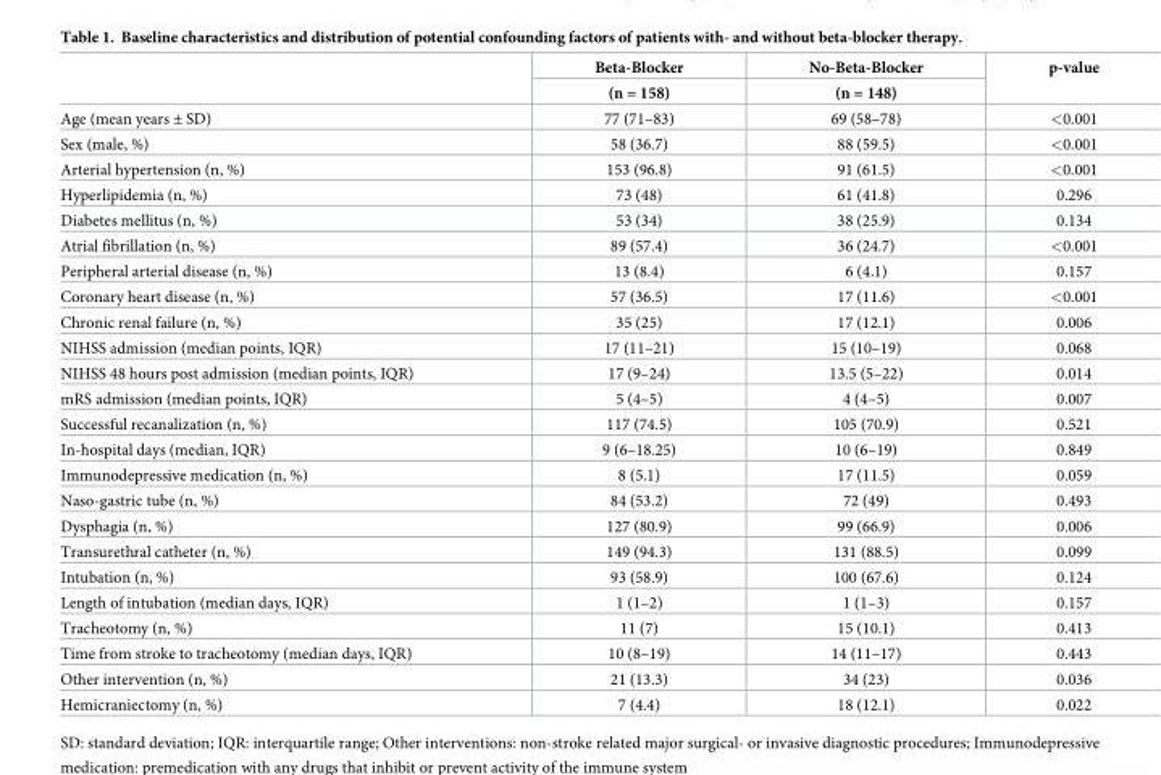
<table><thead><tr><td rowspan="2"></td><td rowspan="2">Beta-Blocker (n = 158)</td><td rowspan="2">No-Beta-Blocker (n = 148)</td><td rowspan="2">p-value</td></tr><tr></tr></thead><tbody><tr><td>Age (mean years ± SD)</td><td>77 (71–83)</td><td>69 (58–78)</td><td>&lt;0.001</td></tr><tr><td>Sex (male, %)</td><td>58 (36.7)</td><td>88 (59.5)</td><td>&lt;0.001</td></tr><tr><td>Arterial hypertension (n, %)</td><td>153 (96.8)</td><td>91 (61.5)</td><td>&lt;0.001</td></tr><tr><td>Hyperlipidemia (n, %)</td><td>73 (48)</td><td>61 (41.8)</td><td>0.296</td></tr><tr><td>Diabetes mellitus (n, %)</td><td>53 (34)</td><td>38 (25.9)</td><td>0.134</td></tr><tr><td>Atrial fibrillation (n, %)</td><td>89 (57.4)</td><td>36 (24.7)</td><td>&lt;0.001</td></tr><tr><td>Peripheral arterial disease (n, %)</td><td>13 (8.4)</td><td>6 (4.1)</td><td>0.157</td></tr><tr><td>Coronary heart disease (n, %)</td><td>57 (36.5)</td><td>17 (11.6)</td><td>&lt;0.001</td></tr><tr><td>Chronic renal failure (n, %)</td><td>35 (25)</td><td>17 (12.1)</td><td>0.006</td></tr><tr><td>NIHSS admission (median points, IQR)</td><td>17 (11–21)</td><td>15 (10–19)</td><td>0.068</td></tr><tr><td>NIHSS 48 hours post admission (median points, IQR)</td><td>17 (9–24)</td><td>13.5 (5–22)</td><td>0.014</td></tr><tr><td>mRS admission (median points, IQR)</td><td>5 (4–5)</td><td>4 (4–5)</td><td>0.007</td></tr><tr><td>Successful recanalization (n, %)</td><td>117 (74.5)</td><td>105 (70.9)</td><td>0.521</td></tr><tr><td>In-hospital days (median, IQR)</td><td>9 (6–18.25)</td><td>10 (6–19)</td><td>0.849</td></tr><tr><td>Immunodepressive medication (n, %)</td><td>8 (5.1)</td><td>17 (11.5)</td><td>0.059</td></tr><tr><td>Naso-gastric tube (n, %)</td><td>84 (53.2)</td><td>72 (49)</td><td>0.493</td></tr><tr><td>Dysphagia (n, %)</td><td>127 (80.9)</td><td>99 (66.9)</td><td>0.006</td></tr><tr><td>Transurethral catheter (n, %)</td><td>149 (94.3)</td><td>131 (88.5)</td><td>0.099</td></tr><tr><td>Intubation (n, %)</td><td>93 (58.9)</td><td>100 (67.6)</td><td>0.124</td></tr><tr><td>Length of intubation (median days, IQR)</td><td>1 (1–2)</td><td>1 (1–3)</td><td>0.157</td></tr><tr><td>Tracheotomy (n, %)</td><td>11 (7)</td><td>15 (10.1)</td><td>0.413</td></tr><tr><td>Time from stroke to tracheotomy (median days, IQR)</td><td>10 (8–19)</td><td>14 (11–17)</td><td>0.443</td></tr><tr><td>Other intervention (n, %)</td><td>21 (13.3)</td><td>34 (23)</td><td>0.036</td></tr><tr><td>Hemicraniectomy (n, %)</td><td>7 (4.4)</td><td>18 (12.1)</td><td>0.022</td></tr></tbody></table>